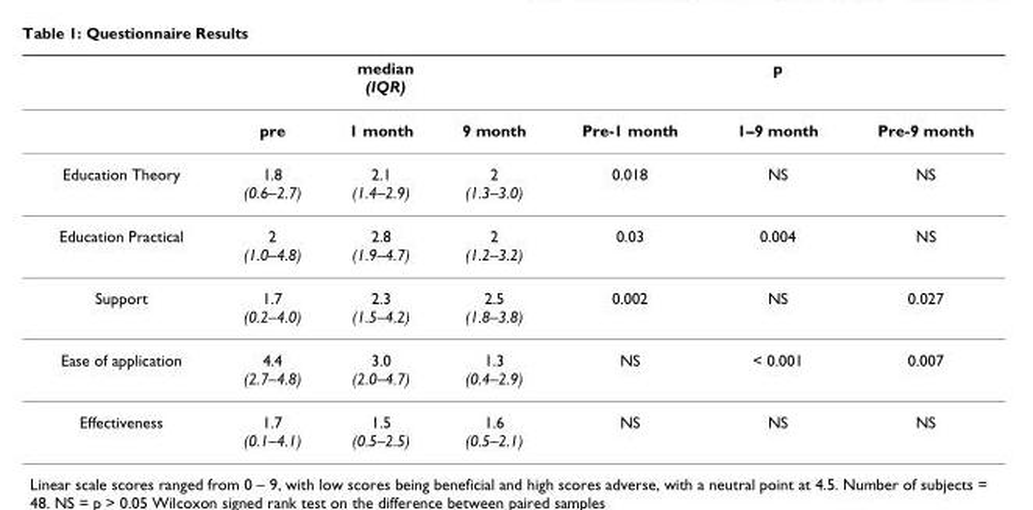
<table><thead><tr><td rowspan="2"></td><td colspan="3">median (IQR)</td><td colspan="3">p</td></tr><tr><td>pre</td><td>1 month</td><td>9 month</td><td>Pre-1 month</td><td>1–9 month</td><td>Pre-9 month</td></tr></thead><tbody><tr><td>Education Theory</td><td>1.8 (0.6–2.7)</td><td>2.1 (1.4–2.9)</td><td>2 (1.3–3.0)</td><td>0.018</td><td>NS</td><td>NS</td></tr><tr><td>Education Practical</td><td>2 (1.0–4.8)</td><td>2.8 (1.9–4.7)</td><td>2 (1.2–3.2)</td><td>0.03</td><td>0.004</td><td>NS</td></tr><tr><td>Support</td><td>1.7 (0.2–4.0)</td><td>2.3 (1.5–4.2)</td><td>2.5 (1.8–3.8)</td><td>0.002</td><td>NS</td><td>0.027</td></tr><tr><td>Ease of application</td><td>4.4 (2.7–4.8)</td><td>3.0 (2.0–4.7)</td><td>1.3 (0.4–2.9)</td><td>NS</td><td>&lt; 0.001</td><td>0.007</td></tr><tr><td>Effectiveness</td><td>1.7 (0.1–4.1)</td><td>1.5 (0.5–2.5)</td><td>1.6 (0.5–2.1)</td><td>NS</td><td>NS</td><td>NS</td></tr></tbody></table>